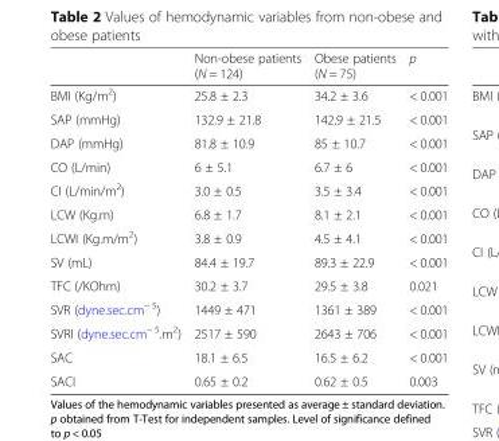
<table><thead><tr><td></td><td>Non-obese patients (N = 124)</td><td>Obese patients (N = 75)</td><td>p</td></tr></thead><tbody><tr><td>BMI (Kg/m<sup>2</sup>)</td><td>25.8 ± 2.3</td><td>34.2 ± 3.6</td><td>&lt; 0.001</td></tr><tr><td>SAP (mmHg)</td><td>132.9 ± 21.8</td><td>142.9 ± 21.5</td><td>&lt; 0.001</td></tr><tr><td>DAP (mmHg)</td><td>81.8 ± 10.9</td><td>85 ± 10.7</td><td>&lt; 0.001</td></tr><tr><td>CO (L/min)</td><td>6 ± 5.1</td><td>6.7 ± 6</td><td>&lt; 0.001</td></tr><tr><td>CI (L/min/m<sup>2</sup>)</td><td>3.0 ± 0.5</td><td>3.5 ± 3.4</td><td>&lt; 0.001</td></tr><tr><td>LCW (Kg.m)</td><td>6.8 ± 1.7</td><td>8.1 ± 2.1</td><td>&lt; 0.001</td></tr><tr><td>LCWI (Kg.m/m<sup>2</sup>)</td><td>3.8 ± 0.9</td><td>4.5 ± 4.1</td><td>&lt; 0.001</td></tr><tr><td>SV (mL)</td><td>84.4 ± 19.7</td><td>89.3 ± 22.9</td><td>&lt; 0.001</td></tr><tr><td>TFC (/KOhm)</td><td>30.2 ± 3.7</td><td>29.5 ± 3.8</td><td>0.021</td></tr><tr><td>SVR (dyne.sec.cm<sup>− 5</sup>)</td><td>1449 ± 471</td><td>1361 ± 389</td><td>&lt; 0.001</td></tr><tr><td>SVRI (dyne.sec.cm<sup>− 5</sup>.m<sup>2</sup>)</td><td>2517 ± 590</td><td>2643 ± 706</td><td>&lt; 0.001</td></tr><tr><td>SAC</td><td>18.1 ± 6.5</td><td>16.5 ± 6.2</td><td>&lt; 0.001</td></tr><tr><td>SACI</td><td>0.65 ± 0.2</td><td>0.62 ± 0.5</td><td>0.003</td></tr></tbody></table>